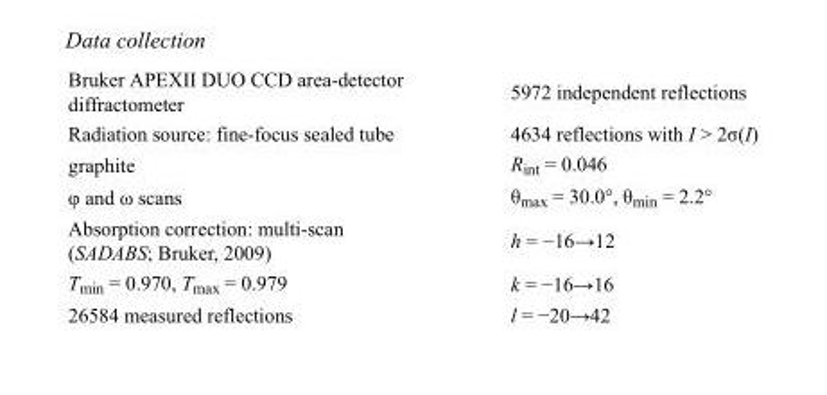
<table><tbody><tr><td>Bruker APEXII DUO CCD area-detector diffractometer</td><td>5972 independent reflections</td></tr><tr><td>Radiation source: fine-focus sealed tube</td><td>4634 reflections with I &gt; 2σ(I)</td></tr><tr><td>graphite</td><td>R<sub>int</sub> = 0.046</td></tr><tr><td>φ and ω scans</td><td>θ<sub>max</sub> = 30.0°, θ<sub>min</sub> = 2.2°</td></tr><tr><td>Absorption correction: multi-scan (SADABS; Bruker, 2009)</td><td>h = −16→12</td></tr><tr><td>T<sub>min</sub> = 0.970, T<sub>max</sub> = 0.979</td><td>k = −16→16</td></tr><tr><td>26584 measured reflections</td><td>l = −20→42</td></tr></tbody></table>